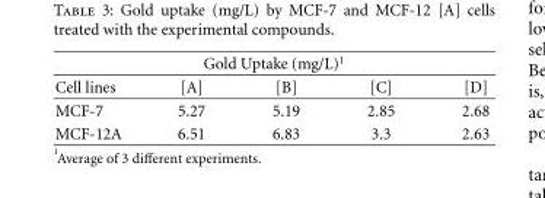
<table><thead><tr><td colspan="5">Gold Uptake (mg/L)<sup>1</sup></td></tr><tr><td>Cell lines</td><td>[A]</td><td>[B]</td><td>[C]</td><td>[D]</td></tr></thead><tbody><tr><td>MCF-7</td><td>5.27</td><td>5.19</td><td>2.85</td><td>2.68</td></tr><tr><td>MCF-12A</td><td>6.51</td><td>6.83</td><td>3.3</td><td>2.63</td></tr></tbody></table>